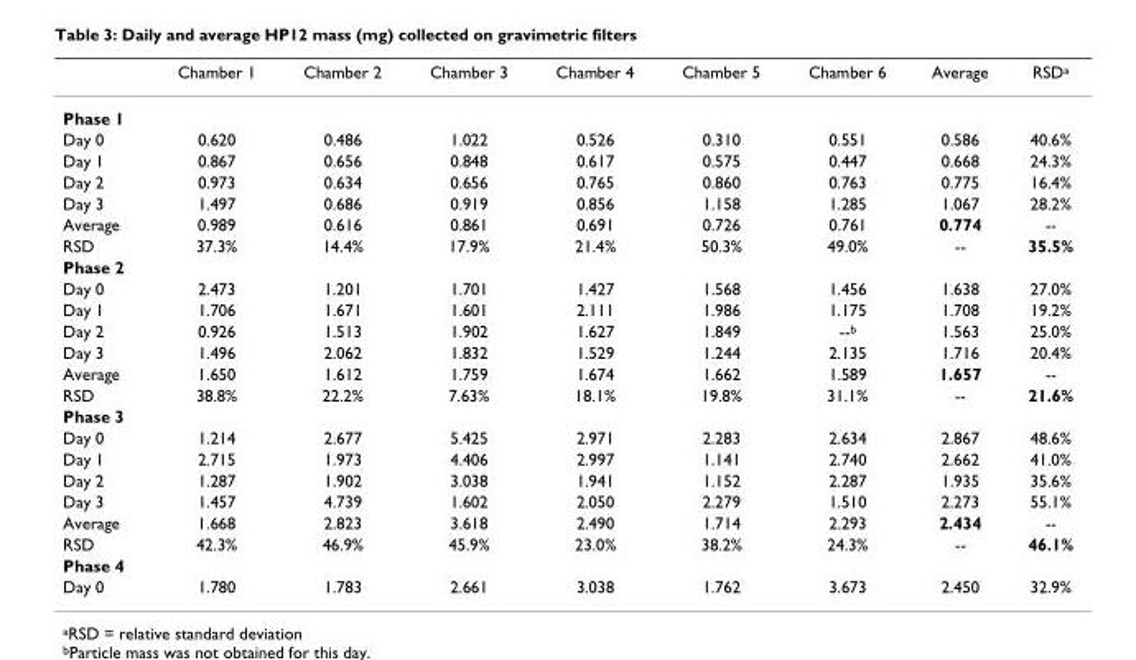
<table><thead><tr><td></td><td>Chamber 1</td><td>Chamber 2</td><td>Chamber 3</td><td>Chamber 4</td><td>Chamber 5</td><td>Chamber 6</td><td>Average</td><td>RSD<sup>a</sup></td></tr></thead><tbody><tr><td colspan="9">Phase 1</td></tr><tr><td>Day 0</td><td>0.620</td><td>0.486</td><td>1.022</td><td>0.526</td><td>0.310</td><td>0.551</td><td>0.586</td><td>40.6%</td></tr><tr><td>Day 1</td><td>0.867</td><td>0.656</td><td>0.848</td><td>0.617</td><td>0.575</td><td>0.447</td><td>0.668</td><td>24.3%</td></tr><tr><td>Day 2</td><td>0.973</td><td>0.634</td><td>0.656</td><td>0.765</td><td>0.860</td><td>0.763</td><td>0.775</td><td>16.4%</td></tr><tr><td>Day 3</td><td>1.497</td><td>0.686</td><td>0.919</td><td>0.856</td><td>1.158</td><td>1.285</td><td>1.067</td><td>28.2%</td></tr><tr><td>Average</td><td>0.989</td><td>0.616</td><td>0.861</td><td>0.691</td><td>0.726</td><td>0.761</td><td>0.774</td><td>--</td></tr><tr><td>RSD</td><td>37.3%</td><td>14.4%</td><td>17.9%</td><td>21.4%</td><td>50.3%</td><td>49.0%</td><td>--</td><td>35.5%</td></tr><tr><td colspan="9">Phase 2</td></tr><tr><td>Day 0</td><td>2.473</td><td>1.201</td><td>1.701</td><td>1.427</td><td>1.568</td><td>1.456</td><td>1.638</td><td>27.0%</td></tr><tr><td>Day 1</td><td>1.706</td><td>1.671</td><td>1.601</td><td>2.111</td><td>1.986</td><td>1.175</td><td>1.708</td><td>19.2%</td></tr><tr><td>Day 2</td><td>0.926</td><td>1.513</td><td>1.902</td><td>1.627</td><td>1.849</td><td>--<sup>b</sup></td><td>1.563</td><td>25.0%</td></tr><tr><td>Day 3</td><td>1.496</td><td>2.062</td><td>1.832</td><td>1.529</td><td>1.244</td><td>2.135</td><td>1.716</td><td>20.4%</td></tr><tr><td>Average</td><td>1.650</td><td>1.612</td><td>1.759</td><td>1.674</td><td>1.662</td><td>1.589</td><td>1.657</td><td>--</td></tr><tr><td>RSD</td><td>38.8%</td><td>22.2%</td><td>7.63%</td><td>18.1%</td><td>19.8%</td><td>31.1%</td><td>--</td><td>21.6%</td></tr><tr><td colspan="9">Phase 3</td></tr><tr><td>Day 0</td><td>1.214</td><td>2.677</td><td>5.425</td><td>2.971</td><td>2.283</td><td>2.634</td><td>2.867</td><td>48.6%</td></tr><tr><td>Day 1</td><td>2.715</td><td>1.973</td><td>4.406</td><td>2.997</td><td>1.141</td><td>2.740</td><td>2.662</td><td>41.0%</td></tr><tr><td>Day 2</td><td>1.287</td><td>1.902</td><td>3.038</td><td>1.941</td><td>1.152</td><td>2.287</td><td>1.935</td><td>35.6%</td></tr><tr><td>Day 3</td><td>1.457</td><td>4.739</td><td>1.602</td><td>2.050</td><td>2.279</td><td>1.510</td><td>2.273</td><td>55.1%</td></tr><tr><td>Average</td><td>1.668</td><td>2.823</td><td>3.618</td><td>2.490</td><td>1.714</td><td>2.293</td><td>2.434</td><td>--</td></tr><tr><td>RSD</td><td>42.3%</td><td>46.9%</td><td>45.9%</td><td>23.0%</td><td>38.2%</td><td>24.3%</td><td>--</td><td>46.1%</td></tr><tr><td colspan="9">Phase 4</td></tr><tr><td>Day 0</td><td>1.780</td><td>1.783</td><td>2.661</td><td>3.038</td><td>1.762</td><td>3.673</td><td>2.450</td><td>32.9%</td></tr></tbody></table>